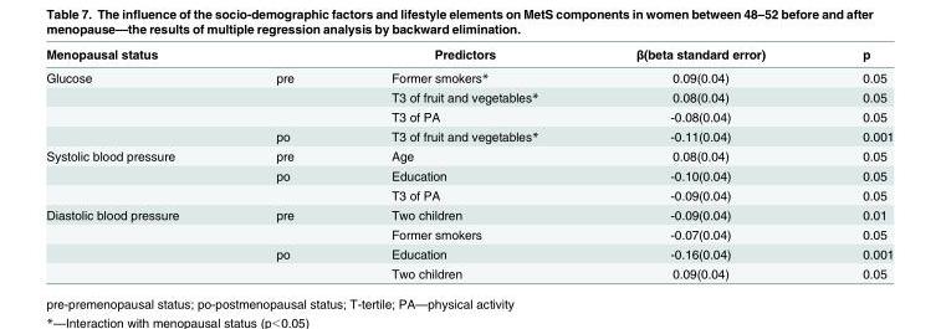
<table><thead><tr><td colspan="2">Menopausal status</td><td rowspan="2">Predictors Former smokers*</td><td rowspan="2">β(beta standard error) 0.09(0.04)</td><td rowspan="2">p 0.05</td></tr><tr><td>Glucose</td><td>pre</td></tr></thead><tbody><tr><td></td><td></td><td>T3 of fruit and vegetables*</td><td>0.08(0.04)</td><td>0.05</td></tr><tr><td></td><td></td><td>T3 of PA</td><td>-0.08(0.04)</td><td>0.05</td></tr><tr><td></td><td>po</td><td>T3 of fruit and vegetables*</td><td>-0.11(0.04)</td><td>0.001</td></tr><tr><td rowspan="3">Systolic blood pressure</td><td>pre</td><td>Age</td><td>0.08(0.04)</td><td>0.05</td></tr><tr><td>po</td><td>Education</td><td>-0.10(0.04)</td><td>0.05</td></tr><tr><td></td><td>T3 of PA</td><td>-0.09(0.04)</td><td>0.05</td></tr><tr><td rowspan="4">Diastolic blood pressure</td><td>pre</td><td>Two children</td><td>-0.09(0.04)</td><td>0.01</td></tr><tr><td></td><td>Former smokers</td><td>-0.07(0.04)</td><td>0.05</td></tr><tr><td>po</td><td>Education</td><td>-0.16(0.04)</td><td>0.001</td></tr><tr><td></td><td>Two children</td><td>0.09(0.04)</td><td>0.05</td></tr></tbody></table>